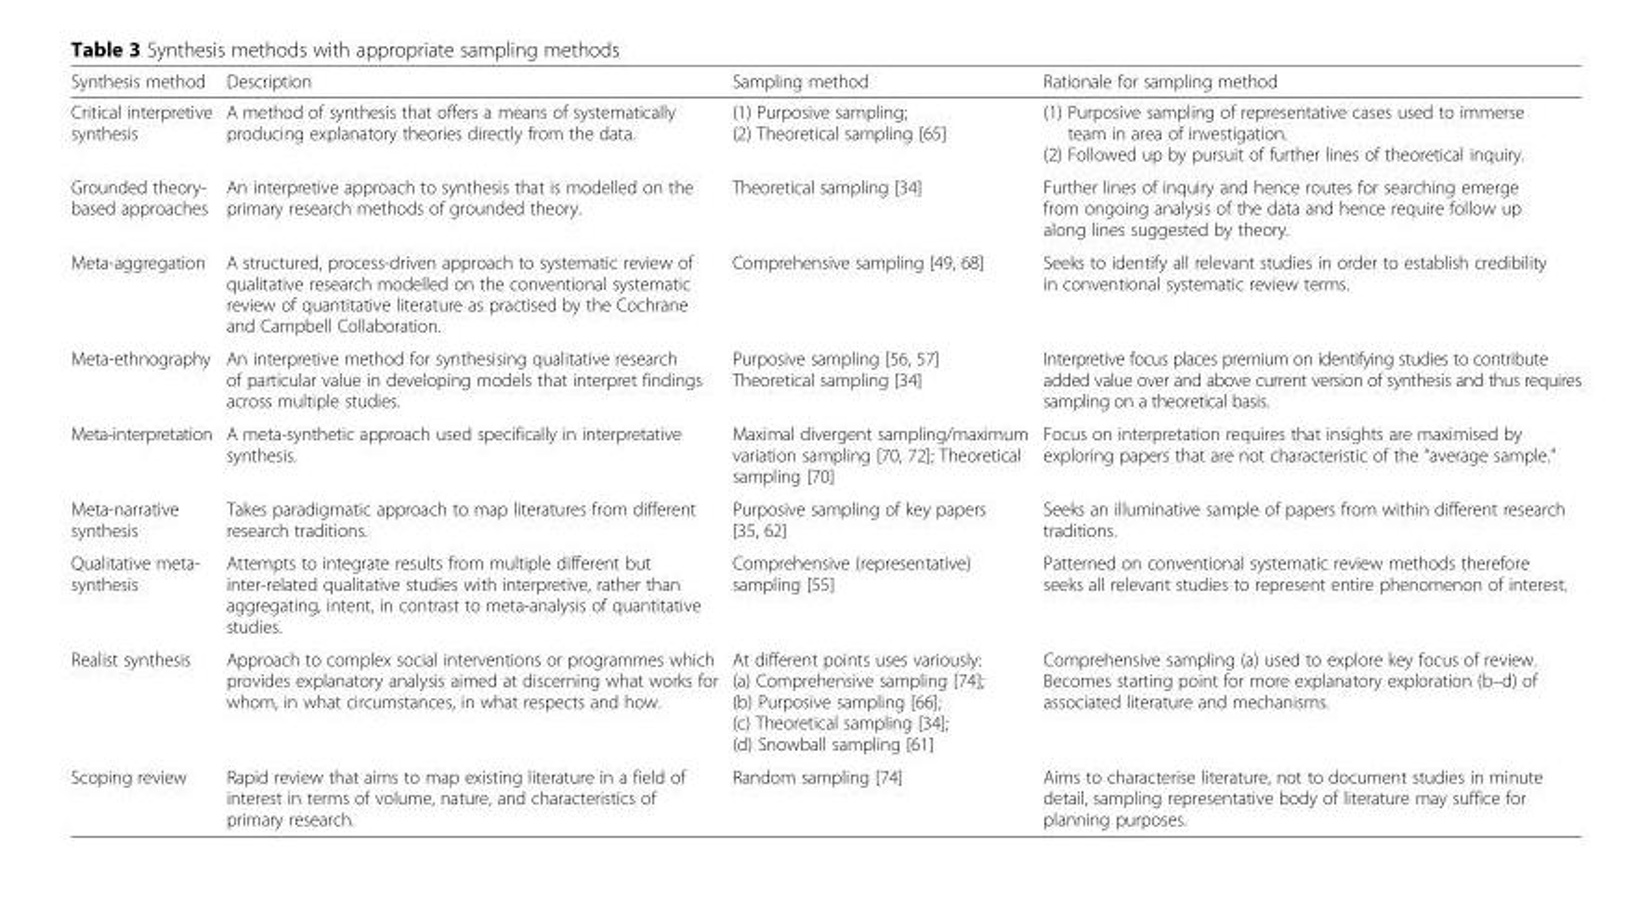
<table><thead><tr><td>Synthesis method</td><td>Description</td><td>Sampling method</td><td>Rationale for sampling method</td></tr></thead><tbody><tr><td>Critical interpretive synthesis</td><td>A method of synthesis that offers a means of systematically producing explanatory theories directly from the data.</td><td>(1) Purposive sampling; (2) Theoretical sampling [65]</td><td>(1) Purposive sampling of representative cases used to immerse team in area of investigation. (2) Followed up by pursuit of further lines of theoretical inquiry.</td></tr><tr><td>Grounded theory- based approaches</td><td>An interpretive approach to synthesis that is modelled on the primary research methods of grounded theory.</td><td>Theoretical sampling [34]</td><td>Further lines of inquiry and hence routes for searching emerge from ongoing analysis of the data and hence require follow up along lines suggested by theory.</td></tr><tr><td>Meta-aggregation</td><td>A structured, process-driven approach to systematic review of qualitative research modelled on the conventional systematic review of quantitative literature as practised by the Cochrane and Campbell Collaboration.</td><td>Comprehensive sampling [49, 68]</td><td>Seeks to identify all relevant studies in order to establish credibility in conventional systematic review terms.</td></tr><tr><td>Meta-ethnography</td><td>An interpretive method for synthesising qualitative research of particular value in developing models that interpret findings across multiple studies.</td><td>Purposive sampling [56, 57] Theoretical sampling [34]</td><td>Interpretive focus places premium on identifying studies to contribute added value over and above current version of synthesis and thus requires sampling on a theoretical basis.</td></tr><tr><td>Meta-interpretation</td><td>A meta-synthetic approach used specifically in interpretative synthesis.</td><td>Maximal divergent sampling/maximum variation sampling [70, 72]; Theoretical sampling [70]</td><td>Focus on interpretation requires that insights are maximised by exploring papers that are not characteristic of the “average sample.”</td></tr><tr><td>Meta-narrative synthesis</td><td>Takes paradigmatic approach to map literatures from different research traditions.</td><td>Purposive sampling of key papers [35, 62]</td><td>Seeks an illuminative sample of papers from within different research traditions.</td></tr><tr><td>Qualitative meta- synthesis</td><td>Attempts to integrate results from multiple different but inter-related qualitative studies with interpretive, rather than aggregating, intent, in contrast to meta-analysis of quantitative studies.</td><td>Comprehensive (representative) sampling [55]</td><td>Patterned on conventional systematic review methods therefore seeks all relevant studies to represent entire phenomenon of interest.</td></tr><tr><td>Realist synthesis</td><td>Approach to complex social interventions or programmes which provides explanatory analysis aimed at discerning what works for whom, in what circumstances, in what respects and how.</td><td>At different points uses variously: (a) Comprehensive sampling [74]; (b) Purposive sampling [66]; (c) Theoretical sampling [34]; (d) Snowball sampling [61]</td><td>Comprehensive sampling (a) used to explore key focus of review. Becomes starting point for more explanatory exploration (b–d) of associated literature and mechanisms.</td></tr><tr><td>Scoping review</td><td>Rapid review that aims to map existing literature in a field of interest in terms of volume, nature, and characteristics of primary research.</td><td>Random sampling [74]</td><td>Aims to characterise literature, not to document studies in minute detail, sampling representative body of literature may suffice for planning purposes.</td></tr></tbody></table>